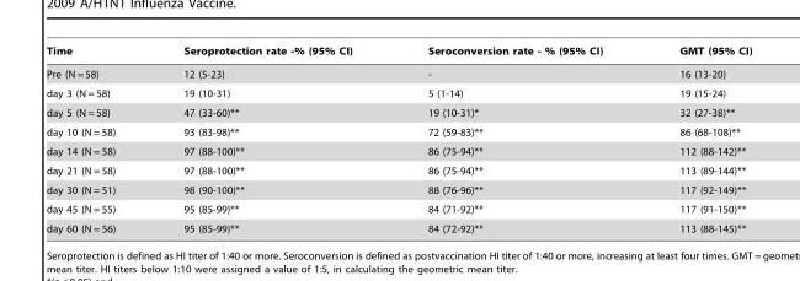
<table><thead><tr><td>Time</td><td>Seroprotection rate -% (95% CI)</td><td>Seroconversion rate - % (95% CI)</td><td>GMT (95% CI)</td></tr></thead><tbody><tr><td>Pre (N = 58)</td><td>12 (5-23)</td><td>-</td><td>16 (13-20)</td></tr><tr><td>day 3 (N = 58)</td><td>19 (10-31)</td><td>5 (1-14)</td><td>19 (15-24)</td></tr><tr><td>day 5 (N = 58)</td><td>47 (33-60)**</td><td>19 (10-31)*</td><td>32 (27-38)**</td></tr><tr><td>day 10 (N = 58)</td><td>93 (83-98)**</td><td>72 (59-83)**</td><td>86 (68-108)**</td></tr><tr><td>day 14 (N = 58)</td><td>97 (88-100)**</td><td>86 (75-94)**</td><td>112 (88-142)**</td></tr><tr><td>day 21 (N = 58)</td><td>97 (88-100)**</td><td>86 (75-94)**</td><td>113 (89-144)**</td></tr><tr><td>day 30 (N = 51)</td><td>98 (90-100)**</td><td>88 (76-96)**</td><td>117 (92-149)**</td></tr><tr><td>day 45 (N = 55)</td><td>95 (85-99)**</td><td>84 (71-92)**</td><td>117 (91-150)**</td></tr><tr><td>day 60 (N = 56)</td><td>95 (85-99)**</td><td>84 (72-92)**</td><td>113 (88-145)**</td></tr></tbody></table>